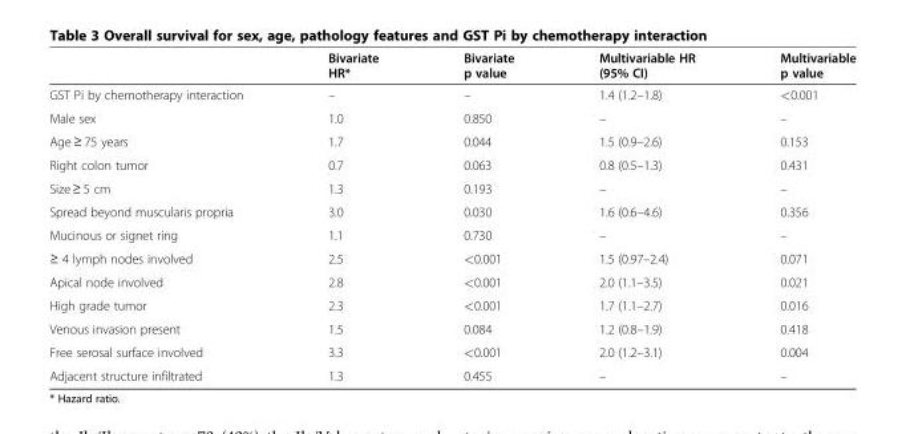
<table><thead><tr><td></td><td>Bivariate HR*</td><td>Bivariate p value</td><td>Multivariable HR (95% CI)</td><td>Multivariable p value</td></tr></thead><tbody><tr><td>GST Pi by chemotherapy interaction</td><td>–</td><td>–</td><td>1.4 (1.2–1.8)</td><td>&lt;0.001</td></tr><tr><td>Male sex</td><td>1.0</td><td>0.850</td><td>–</td><td>–</td></tr><tr><td>Age ≥ 75 years</td><td>1.7</td><td>0.044</td><td>1.5 (0.9–2.6)</td><td>0.153</td></tr><tr><td>Right colon tumor</td><td>0.7</td><td>0.063</td><td>0.8 (0.5–1.3)</td><td>0.431</td></tr><tr><td>Size ≥ 5 cm</td><td>1.3</td><td>0.193</td><td>–</td><td>–</td></tr><tr><td>Spread beyond muscularis propria</td><td>3.0</td><td>0.030</td><td>1.6 (0.6–4.6)</td><td>0.356</td></tr><tr><td>Mucinous or signet ring</td><td>1.1</td><td>0.730</td><td>–</td><td>–</td></tr><tr><td>≥ 4 lymph nodes involved</td><td>2.5</td><td>&lt;0.001</td><td>1.5 (0.97–2.4)</td><td>0.071</td></tr><tr><td>Apical node involved</td><td>2.8</td><td>&lt;0.001</td><td>2.0 (1.1–3.5)</td><td>0.021</td></tr><tr><td>High grade tumor</td><td>2.3</td><td>&lt;0.001</td><td>1.7 (1.1–2.7)</td><td>0.016</td></tr><tr><td>Venous invasion present</td><td>1.5</td><td>0.084</td><td>1.2 (0.8–1.9)</td><td>0.418</td></tr><tr><td>Free serosal surface involved</td><td>3.3</td><td>&lt;0.001</td><td>2.0 (1.2–3.1)</td><td>0.004</td></tr><tr><td>Adjacent structure infiltrated</td><td>1.3</td><td>0.455</td><td>–</td><td>–</td></tr></tbody></table>